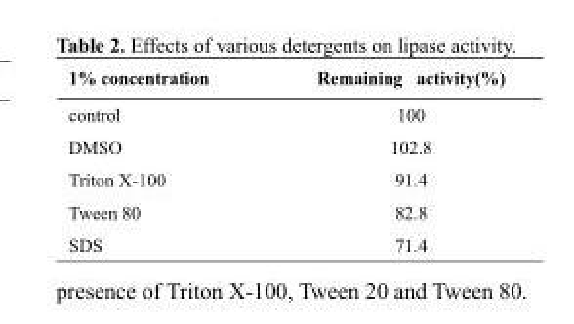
<table><thead><tr><td>1% concentration</td><td>Remaining activity(%)</td></tr></thead><tbody><tr><td>control</td><td>100</td></tr><tr><td>DMSO</td><td>102.8</td></tr><tr><td>Triton X-100</td><td>91.4</td></tr><tr><td>Tween 80</td><td>82.8</td></tr><tr><td>SDS</td><td>71.4</td></tr></tbody></table>